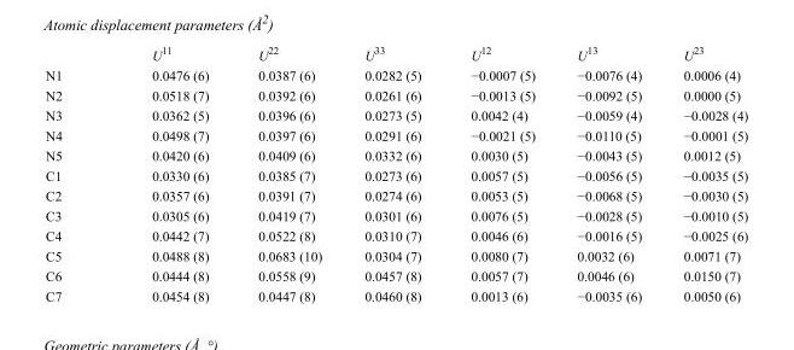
<table><thead><tr><td></td><td>U<sup>11</sup></td><td>U<sup>22</sup></td><td>U<sup>33</sup></td><td>U<sup>12</sup></td><td>U<sup>13</sup></td><td>U<sup>23</sup></td></tr></thead><tbody><tr><td>N1</td><td>0.0476 (6)</td><td>0.0387 (6)</td><td>0.0282 (5)</td><td>−0.0007 (5)</td><td>−0.0076 (4)</td><td>0.0006 (4)</td></tr><tr><td>N2</td><td>0.0518 (7)</td><td>0.0392 (6)</td><td>0.0261 (6)</td><td>−0.0013 (5)</td><td>−0.0092 (5)</td><td>0.0000 (5)</td></tr><tr><td>N3</td><td>0.0362 (5)</td><td>0.0396 (6)</td><td>0.0273 (5)</td><td>0.0042 (4)</td><td>−0.0059 (4)</td><td>−0.0028 (4)</td></tr><tr><td>N4</td><td>0.0498 (7)</td><td>0.0397 (6)</td><td>0.0291 (6)</td><td>−0.0021 (5)</td><td>−0.0110 (5)</td><td>−0.0001 (5)</td></tr><tr><td>N5</td><td>0.0420 (6)</td><td>0.0409 (6)</td><td>0.0332 (6)</td><td>0.0030 (5)</td><td>−0.0043 (5)</td><td>0.0012 (5)</td></tr><tr><td>C1</td><td>0.0330 (6)</td><td>0.0385 (7)</td><td>0.0273 (6)</td><td>0.0057 (5)</td><td>−0.0056 (5)</td><td>−0.0035 (5)</td></tr><tr><td>C2</td><td>0.0357 (6)</td><td>0.0391 (7)</td><td>0.0274 (6)</td><td>0.0053 (5)</td><td>−0.0068 (5)</td><td>−0.0030 (5)</td></tr><tr><td>C3</td><td>0.0305 (6)</td><td>0.0419 (7)</td><td>0.0301 (6)</td><td>0.0076 (5)</td><td>−0.0028 (5)</td><td>−0.0010 (5)</td></tr><tr><td>C4</td><td>0.0442 (7)</td><td>0.0522 (8)</td><td>0.0310 (7)</td><td>0.0046 (6)</td><td>−0.0016 (5)</td><td>−0.0025 (6)</td></tr><tr><td>C5</td><td>0.0488 (8)</td><td>0.0683 (10)</td><td>0.0304 (7)</td><td>0.0080 (7)</td><td>0.0032 (6)</td><td>0.0071 (7)</td></tr><tr><td>C6</td><td>0.0444 (8)</td><td>0.0558 (9)</td><td>0.0457 (8)</td><td>0.0057 (7)</td><td>0.0046 (6)</td><td>0.0150 (7)</td></tr><tr><td>C7</td><td>0.0454 (8)</td><td>0.0447 (8)</td><td>0.0460 (8)</td><td>0.0013 (6)</td><td>−0.0035 (6)</td><td>0.0050 (6)</td></tr></tbody></table>